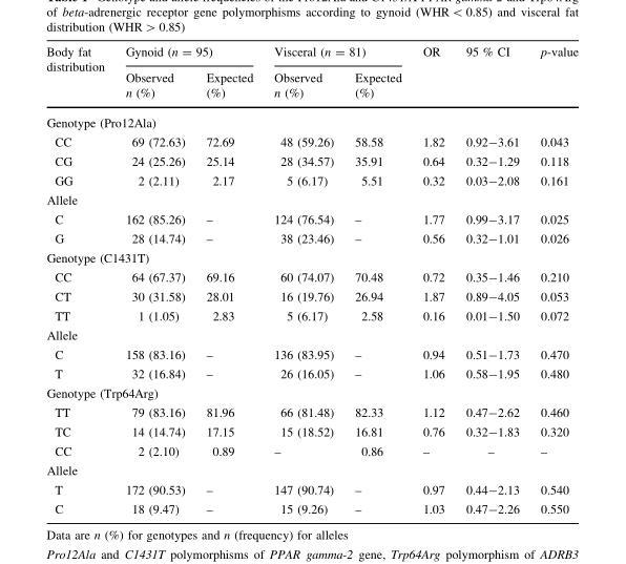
<table><thead><tr><td rowspan="2">Body fat distribution</td><td colspan="2">Gynoid (n = 95)</td><td colspan="2">Visceral (n = 81)</td><td rowspan="2">OR</td><td rowspan="2">95 % CI</td><td rowspan="2">p-value</td></tr><tr><td>Observed n (%)</td><td>Expected (%)</td><td>Observed n (%)</td><td>Expected (%)</td></tr></thead><tbody><tr><td colspan="8">Genotype (Pro12Ala)</td></tr><tr><td>CC</td><td>69 (72.63)</td><td>72.69</td><td>48 (59.26)</td><td>58.58</td><td>1.82</td><td>0.92-3.61</td><td>0.043</td></tr><tr><td>CG</td><td>24 (25.26)</td><td>25.14</td><td>28 (34.57)</td><td>35.91</td><td>0.64</td><td>0.32-1.29</td><td>0.118</td></tr><tr><td>GG</td><td>2 (2.11)</td><td>2.17</td><td>5 (6.17)</td><td>5.51</td><td>0.32</td><td>0.03-2.08</td><td>0.161</td></tr><tr><td colspan="8">Allele</td></tr><tr><td>C</td><td>162 (85.26)</td><td>–</td><td>124 (76.54)</td><td>–</td><td>1.77</td><td>0.99-3.17</td><td>0.025</td></tr><tr><td>G</td><td>28 (14.74)</td><td>–</td><td>38 (23.46)</td><td>–</td><td>0.56</td><td>0.32-1.01</td><td>0.026</td></tr><tr><td colspan="8">Genotype (C1431T)</td></tr><tr><td>CC</td><td>64 (67.37)</td><td>69.16</td><td>60 (74.07)</td><td>70.48</td><td>0.72</td><td>0.35-1.46</td><td>0.210</td></tr><tr><td>CT</td><td>30 (31.58)</td><td>28.01</td><td>16 (19.76)</td><td>26.94</td><td>1.87</td><td>0.89-4.05</td><td>0.053</td></tr><tr><td>TT</td><td>1 (1.05)</td><td>2.83</td><td>5 (6.17)</td><td>2.58</td><td>0.16</td><td>0.01-1.50</td><td>0.072</td></tr><tr><td colspan="8">Allele</td></tr><tr><td>C</td><td>158 (83.16)</td><td>–</td><td>136 (83.95)</td><td>–</td><td>0.94</td><td>0.51-1.73</td><td>0.470</td></tr><tr><td>T</td><td>32 (16.84)</td><td>–</td><td>26 (16.05)</td><td>–</td><td>1.06</td><td>0.58-1.95</td><td>0.480</td></tr><tr><td colspan="8">Genotype (Trp64Arg)</td></tr><tr><td>TT</td><td>79 (83.16)</td><td>81.96</td><td>66 (81.48)</td><td>82.33</td><td>1.12</td><td>0.47-2.62</td><td>0.460</td></tr><tr><td>TC</td><td>14 (14.74)</td><td>17.15</td><td>15 (18.52)</td><td>16.81</td><td>0.76</td><td>0.32-1.83</td><td>0.320</td></tr><tr><td>CC</td><td>2 (2.10)</td><td>0.89</td><td>–</td><td>0.86</td><td>–</td><td>–</td><td>–</td></tr><tr><td colspan="8">Allele</td></tr><tr><td>T</td><td>172 (90.53)</td><td>–</td><td>147 (90.74)</td><td>–</td><td>0.97</td><td>0.44-2.13</td><td>0.540</td></tr><tr><td>C</td><td>18 (9.47)</td><td>–</td><td>15 (9.26)</td><td>–</td><td>1.03</td><td>0.47-2.26</td><td>0.550</td></tr></tbody></table>